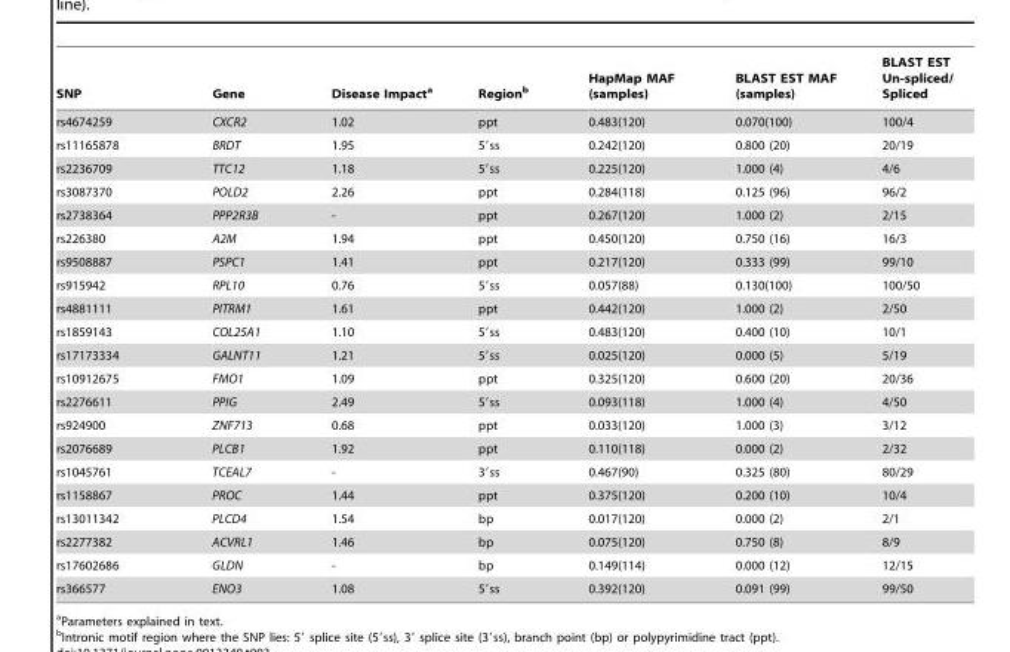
<table><thead><tr><td>SNP</td><td>Gene</td><td>Disease Impact<sup>a</sup></td><td>Region<sup>b</sup></td><td>HapMap MAF (samples)</td><td>BLAST EST MAF (samples)</td><td>BLAST EST Un-spliced/ Spliced</td></tr></thead><tbody><tr><td>rs4674259</td><td>CXCR2</td><td>1.02</td><td>ppt</td><td>0.483(120)</td><td>0.070(100)</td><td>100/4</td></tr><tr><td>rs11165878</td><td>BRDT</td><td>1.95</td><td>5′ss</td><td>0.242(120)</td><td>0.800 (20)</td><td>20/19</td></tr><tr><td>rs2236709</td><td>TTC12</td><td>1.18</td><td>5′ss</td><td>0.225(120)</td><td>1.000 (4)</td><td>4/6</td></tr><tr><td>rs3087370</td><td>POLD2</td><td>2.26</td><td>ppt</td><td>0.284(118)</td><td>0.125 (96)</td><td>96/2</td></tr><tr><td>rs2738364</td><td>PPP2R3B</td><td>-</td><td>ppt</td><td>0.267(120)</td><td>1.000 (2)</td><td>2/15</td></tr><tr><td>rs226380</td><td>A2M</td><td>1.94</td><td>ppt</td><td>0.450(120)</td><td>0.750 (16)</td><td>16/3</td></tr><tr><td>rs9508887</td><td>PSPC1</td><td>1.41</td><td>ppt</td><td>0.217(120)</td><td>0.333 (99)</td><td>99/10</td></tr><tr><td>rs915942</td><td>RPL10</td><td>0.76</td><td>5′ss</td><td>0.057(88)</td><td>0.130(100)</td><td>100/50</td></tr><tr><td>rs4881111</td><td>PITRM1</td><td>1.61</td><td>ppt</td><td>0.442(120)</td><td>1.000 (2)</td><td>2/50</td></tr><tr><td>rs1859143</td><td>COL25A1</td><td>1.10</td><td>5′ss</td><td>0.483(120)</td><td>0.400 (10)</td><td>10/1</td></tr><tr><td>rs17173334</td><td>GALNT11</td><td>1.21</td><td>5′ss</td><td>0.025(120)</td><td>0.000 (5)</td><td>5/19</td></tr><tr><td>rs10912675</td><td>FMO1</td><td>1.09</td><td>ppt</td><td>0.325(120)</td><td>0.600 (20)</td><td>20/36</td></tr><tr><td>rs2276611</td><td>PPIG</td><td>2.49</td><td>5′ss</td><td>0.093(118)</td><td>1.000 (4)</td><td>4/50</td></tr><tr><td>rs924900</td><td>ZNF713</td><td>0.68</td><td>ppt</td><td>0.033(120)</td><td>1.000 (3)</td><td>3/12</td></tr><tr><td>rs2076689</td><td>PLCB1</td><td>1.92</td><td>ppt</td><td>0.110(118)</td><td>0.000 (2)</td><td>2/32</td></tr><tr><td>rs1045761</td><td>TCEAL7</td><td>-</td><td>3′ss</td><td>0.467(90)</td><td>0.325 (80)</td><td>80/29</td></tr><tr><td>rs1158867</td><td>PROC</td><td>1.44</td><td>ppt</td><td>0.375(120)</td><td>0.200 (10)</td><td>10/4</td></tr><tr><td>rs13011342</td><td>PLCD4</td><td>1.54</td><td>bp</td><td>0.017(120)</td><td>0.000 (2)</td><td>2/1</td></tr><tr><td>rs2277382</td><td>ACVRL1</td><td>1.46</td><td>bp</td><td>0.075(120)</td><td>0.750 (8)</td><td>8/9</td></tr><tr><td>rs17602686</td><td>GLDN</td><td>-</td><td>bp</td><td>0.149(114)</td><td>0.000 (12)</td><td>12/15</td></tr><tr><td>rs366577</td><td>ENO3</td><td>1.08</td><td>5′ss</td><td>0.392(120)</td><td>0.091 (99)</td><td>99/50</td></tr></tbody></table>